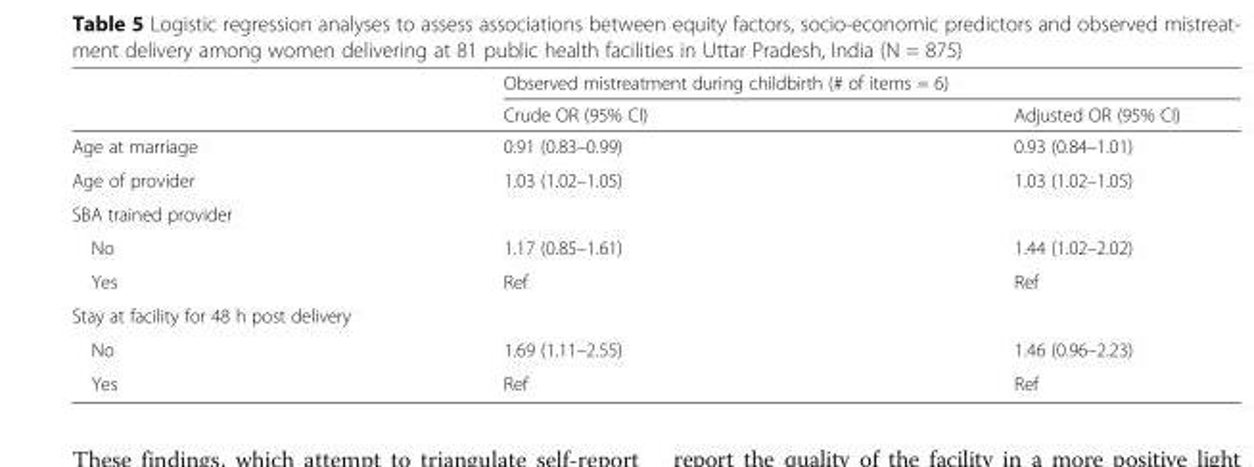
<table><thead><tr><td rowspan="2"></td><td colspan="2">Observed mistreatment during childbirth (# of items = 6)</td></tr><tr><td>Crude OR (95% CI)</td><td>Adjusted OR (95% CI)</td></tr></thead><tbody><tr><td>Age at marriage</td><td>0.91 (0.83–0.99)</td><td>0.93 (0.84–1.01)</td></tr><tr><td>Age of provider</td><td>1.03 (1.02–1.05)</td><td>1.03 (1.02–1.05)</td></tr><tr><td colspan="3">SBA trained provider</td></tr><tr><td>No</td><td>1.17 (0.85–1.61)</td><td>1.44 (1.02–2.02)</td></tr><tr><td>Yes</td><td>Ref</td><td>Ref</td></tr><tr><td colspan="3">Stay at facility for 48 h post delivery</td></tr><tr><td>No</td><td>1.69 (1.11–2.55)</td><td>1.46 (0.96–2.23)</td></tr><tr><td>Yes</td><td>Ref</td><td>Ref</td></tr></tbody></table>